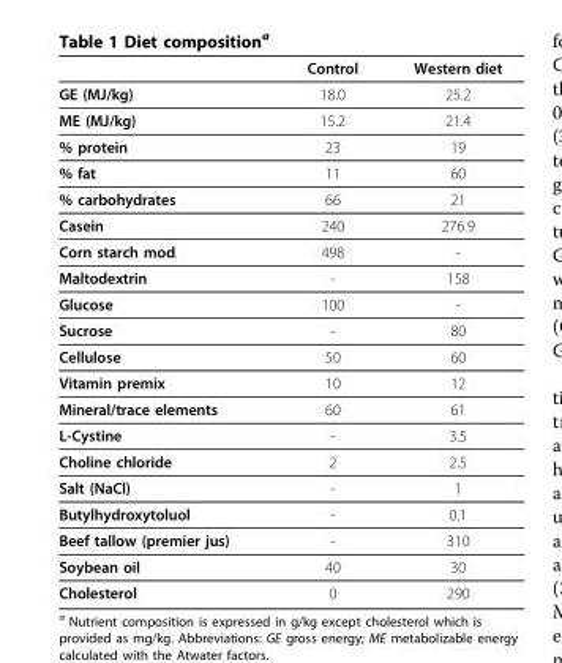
<table><thead><tr><td></td><td>Control</td><td>Western diet</td></tr></thead><tbody><tr><td>GE (MJ/kg)</td><td>18.0</td><td>25.2</td></tr><tr><td>ME (MJ/kg)</td><td>15.2</td><td>21.4</td></tr><tr><td>% protein</td><td>23</td><td>19</td></tr><tr><td>% fat</td><td>11</td><td>60</td></tr><tr><td>% carbohydrates</td><td>66</td><td>21</td></tr><tr><td>Casein</td><td>240</td><td>276.9</td></tr><tr><td>Corn starch mod.</td><td>498</td><td>-</td></tr><tr><td>Maltodextrin</td><td>-</td><td>158</td></tr><tr><td>Glucose</td><td>100</td><td>-</td></tr><tr><td>Sucrose</td><td>-</td><td>80</td></tr><tr><td>Cellulose</td><td>50</td><td>60</td></tr><tr><td>Vitamin premix</td><td>10</td><td>12</td></tr><tr><td>Mineral/trace elements</td><td>60</td><td>61</td></tr><tr><td>L-Cystine</td><td>-</td><td>3.5</td></tr><tr><td>Choline chloride</td><td>2</td><td>2.5</td></tr><tr><td>Salt (NaCl)</td><td>-</td><td>1</td></tr><tr><td>Butylhydroxytoluol</td><td>-</td><td>0.1</td></tr><tr><td>Beef tallow (premier jus)</td><td>-</td><td>310</td></tr><tr><td>Soybean oil</td><td>40</td><td>30</td></tr><tr><td>Cholesterol</td><td>0</td><td>290</td></tr></tbody></table>